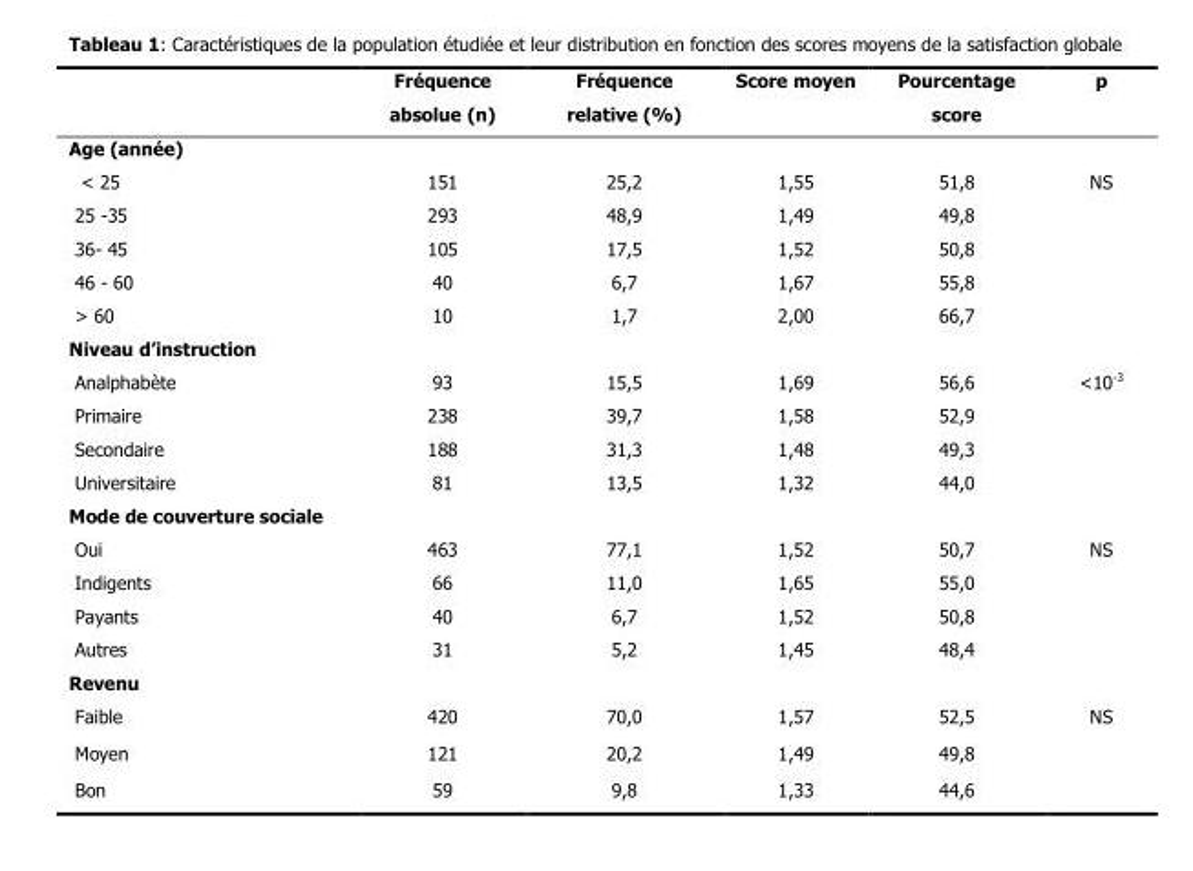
<table><thead><tr><td></td><td>Fréquence absolue (n)</td><td>Fréquence relative (%)</td><td>Score moyen</td><td>Pourcentage score</td><td>p</td></tr></thead><tbody><tr><td colspan="6">Age (année)</td></tr><tr><td>&lt; 25</td><td>151</td><td>25,2</td><td>1,55</td><td>51,8</td><td>NS</td></tr><tr><td>25 -35</td><td>293</td><td>48,9</td><td>1,49</td><td>49,8</td><td></td></tr><tr><td>36- 45</td><td>105</td><td>17,5</td><td>1,52</td><td>50,8</td><td></td></tr><tr><td>46 - 60</td><td>40</td><td>6,7</td><td>1,67</td><td>55,8</td><td></td></tr><tr><td>&gt; 60</td><td>10</td><td>1,7</td><td>2,00</td><td>66,7</td><td></td></tr><tr><td colspan="6">Niveau d’instruction</td></tr><tr><td>Analphabète</td><td>93</td><td>15,5</td><td>1,69</td><td>56,6</td><td>&lt;10<sup>-3</sup></td></tr><tr><td>Primaire</td><td>238</td><td>39,7</td><td>1,58</td><td>52,9</td><td></td></tr><tr><td>Secondaire</td><td>188</td><td>31,3</td><td>1,48</td><td>49,3</td><td></td></tr><tr><td>Universitaire</td><td>81</td><td>13,5</td><td>1,32</td><td>44,0</td><td></td></tr><tr><td colspan="6">Mode de couverture sociale</td></tr><tr><td>Oui</td><td>463</td><td>77,1</td><td>1,52</td><td>50,7</td><td>NS</td></tr><tr><td>Indigents</td><td>66</td><td>11,0</td><td>1,65</td><td>55,0</td><td></td></tr><tr><td>Payants</td><td>40</td><td>6,7</td><td>1,52</td><td>50,8</td><td></td></tr><tr><td>Autres</td><td>31</td><td>5,2</td><td>1,45</td><td>48,4</td><td></td></tr><tr><td colspan="6">Revenu</td></tr><tr><td>Faible</td><td>420</td><td>70,0</td><td>1,57</td><td>52,5</td><td>NS</td></tr><tr><td>Moyen</td><td>121</td><td>20,2</td><td>1,49</td><td>49,8</td><td></td></tr><tr><td>Bon</td><td>59</td><td>9,8</td><td>1,33</td><td>44,6</td><td></td></tr></tbody></table>